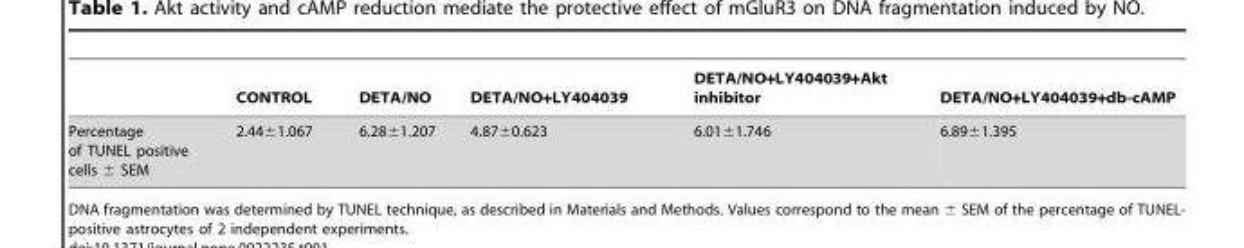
<table><thead><tr><td></td><td>CONTROL</td><td>DETA/NO</td><td>DETA/NO+LY404039</td><td>DETA/NO+LY404039+Akt inhibitor</td><td>DETA/NO+LY404039+db-cAMP</td></tr></thead><tbody><tr><td>Percentage of TUNEL positive cells ± SEM</td><td>2.44±1.067</td><td>6.28±1.207</td><td>4.87±0.623</td><td>6.01±1.746</td><td>6.89±1.395</td></tr></tbody></table>